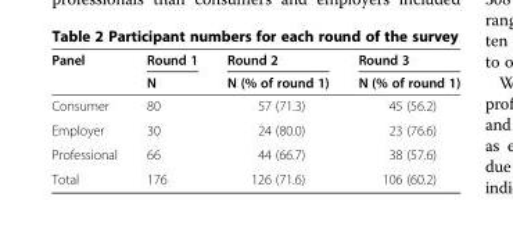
<table><thead><tr><td rowspan="2">Panel</td><td rowspan="2">Round 1 N</td><td rowspan="2">Round 2 N (% of round 1)</td><td rowspan="2">Round 3 N (% of round 1)</td></tr><tr></tr></thead><tbody><tr><td>Consumer</td><td>80</td><td>57 (71.3)</td><td>45 (56.2)</td></tr><tr><td>Employer</td><td>30</td><td>24 (80.0)</td><td>23 (76.6)</td></tr><tr><td>Professional</td><td>66</td><td>44 (66.7)</td><td>38 (57.6)</td></tr><tr><td>Total</td><td>176</td><td>126 (71.6)</td><td>106 (60.2)</td></tr></tbody></table>